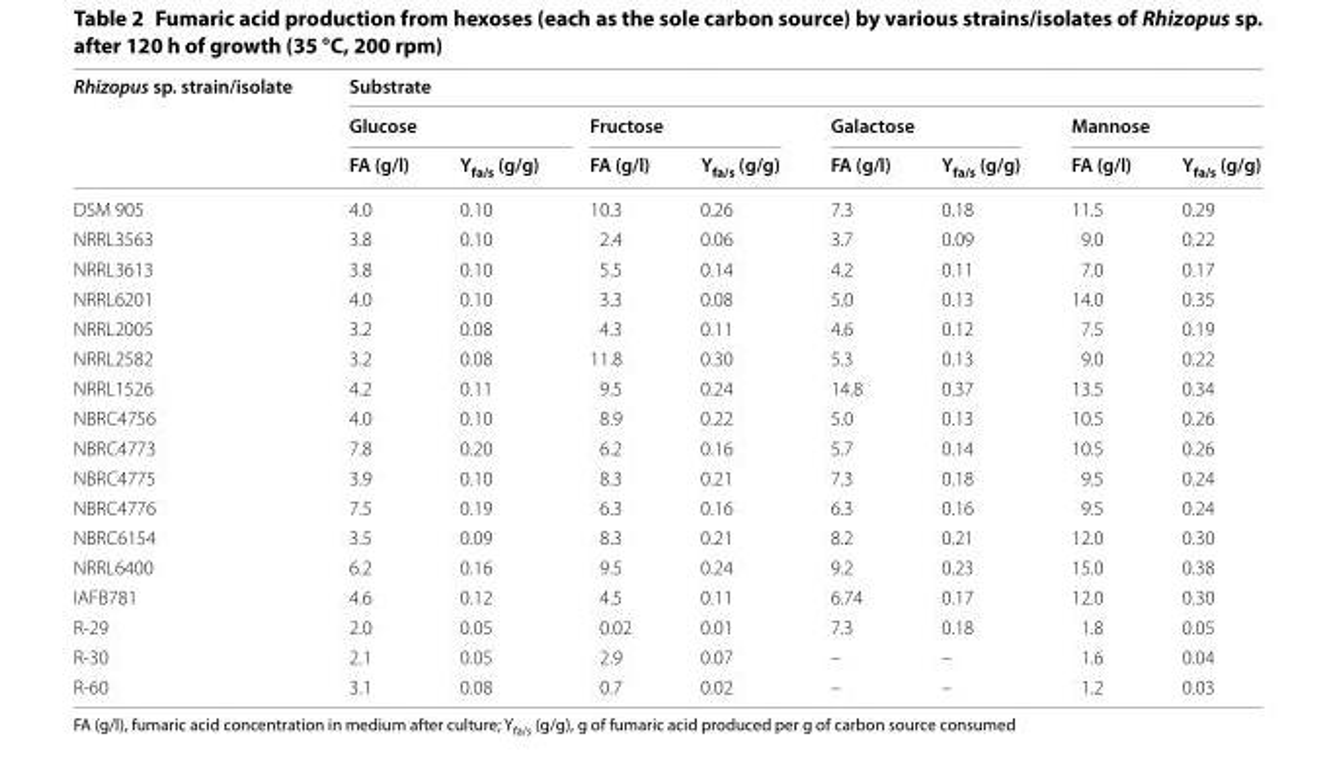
<table><thead><tr><td rowspan="3">Rhizopus sp. strain/isolate</td><td colspan="8">Substrate</td></tr><tr><td colspan="2">Glucose</td><td colspan="2">Fructose</td><td colspan="2">Galactose</td><td colspan="2">Mannose</td></tr><tr><td>FA (g/l)</td><td>Y<sub>fa/s</sub> (g/g)</td><td>FA (g/l)</td><td>Y<sub>fa/s</sub> (g/g)</td><td>FA (g/l)</td><td>Y<sub>fa/s</sub> (g/g)</td><td>FA (g/l)</td><td>Y<sub>fa/s</sub> (g/g)</td></tr></thead><tbody><tr><td>DSM 905</td><td>4.0</td><td>0.10</td><td>10.3</td><td>0.26</td><td>7.3</td><td>0.18</td><td>11.5</td><td>0.29</td></tr><tr><td>NRRL3563</td><td>3.8</td><td>0.10</td><td>2.4</td><td>0.06</td><td>3.7</td><td>0.09</td><td>9.0</td><td>0.22</td></tr><tr><td>NRRL3613</td><td>3.8</td><td>0.10</td><td>5.5</td><td>0.14</td><td>4.2</td><td>0.11</td><td>7.0</td><td>0.17</td></tr><tr><td>NRRL6201</td><td>4.0</td><td>0.10</td><td>3.3</td><td>0.08</td><td>5.0</td><td>0.13</td><td>14.0</td><td>0.35</td></tr><tr><td>NRRL2005</td><td>3.2</td><td>0.08</td><td>4.3</td><td>0.11</td><td>4.6</td><td>0.12</td><td>7.5</td><td>0.19</td></tr><tr><td>NRRL2582</td><td>3.2</td><td>0.08</td><td>11.8</td><td>0.30</td><td>5.3</td><td>0.13</td><td>9.0</td><td>0.22</td></tr><tr><td>NRRL1526</td><td>4.2</td><td>0.11</td><td>9.5</td><td>0.24</td><td>14.8</td><td>0.37</td><td>13.5</td><td>0.34</td></tr><tr><td>NBRC4756</td><td>4.0</td><td>0.10</td><td>8.9</td><td>0.22</td><td>5.0</td><td>0.13</td><td>10.5</td><td>0.26</td></tr><tr><td>NBRC4773</td><td>7.8</td><td>0.20</td><td>6.2</td><td>0.16</td><td>5.7</td><td>0.14</td><td>10.5</td><td>0.26</td></tr><tr><td>NBRC4775</td><td>3.9</td><td>0.10</td><td>8.3</td><td>0.21</td><td>7.3</td><td>0.18</td><td>9.5</td><td>0.24</td></tr><tr><td>NBRC4776</td><td>7.5</td><td>0.19</td><td>6.3</td><td>0.16</td><td>6.3</td><td>0.16</td><td>9.5</td><td>0.24</td></tr><tr><td>NBRC6154</td><td>3.5</td><td>0.09</td><td>8.3</td><td>0.21</td><td>8.2</td><td>0.21</td><td>12.0</td><td>0.30</td></tr><tr><td>NRRL6400</td><td>6.2</td><td>0.16</td><td>9.5</td><td>0.24</td><td>9.2</td><td>0.23</td><td>15.0</td><td>0.38</td></tr><tr><td>IAFB781</td><td>4.6</td><td>0.12</td><td>4.5</td><td>0.11</td><td>6.74</td><td>0.17</td><td>12.0</td><td>0.30</td></tr><tr><td>R‑29</td><td>2.0</td><td>0.05</td><td>0.02</td><td>0.01</td><td>7.3</td><td>0.18</td><td>1.8</td><td>0.05</td></tr><tr><td>R‑30</td><td>2.1</td><td>0.05</td><td>2.9</td><td>0.07</td><td>–</td><td>–</td><td>1.6</td><td>0.04</td></tr><tr><td>R‑60</td><td>3.1</td><td>0.08</td><td>0.7</td><td>0.02</td><td>–</td><td>–</td><td>1.2</td><td>0.03</td></tr></tbody></table>